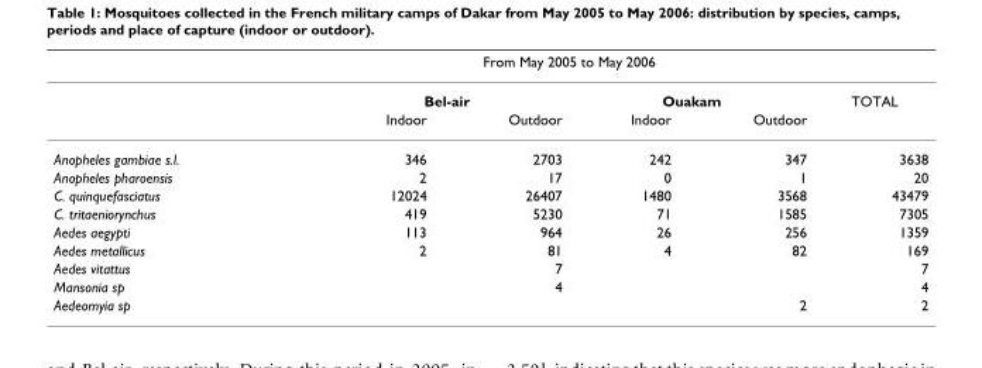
<table><thead><tr><td rowspan="3"></td><td colspan="4">From May 2005 to May 2006</td><td rowspan="3">TOTAL</td></tr><tr><td colspan="2">Bel-air</td><td colspan="2">Ouakam</td></tr><tr><td>Indoor</td><td>Outdoor</td><td>Indoor</td><td>Outdoor</td></tr></thead><tbody><tr><td>Anopheles gambiae s.l.</td><td>346</td><td>2703</td><td>242</td><td>347</td><td>3638</td></tr><tr><td>Anopheles pharoensis</td><td>2</td><td>17</td><td>0</td><td>1</td><td>20</td></tr><tr><td>C. quinquefasciatus</td><td>12024</td><td>26407</td><td>1480</td><td>3568</td><td>43479</td></tr><tr><td>C. tritaeniorynchus</td><td>419</td><td>5230</td><td>71</td><td>1585</td><td>7305</td></tr><tr><td>Aedes aegypti</td><td>113</td><td>964</td><td>26</td><td>256</td><td>1359</td></tr><tr><td>Aedes metallicus</td><td>2</td><td>81</td><td>4</td><td>82</td><td>169</td></tr><tr><td>Aedes vitattus</td><td></td><td>7</td><td></td><td></td><td>7</td></tr><tr><td>Mansonia sp</td><td></td><td>4</td><td></td><td></td><td>4</td></tr><tr><td>Aedeomyia sp</td><td></td><td></td><td></td><td>2</td><td>2</td></tr></tbody></table>